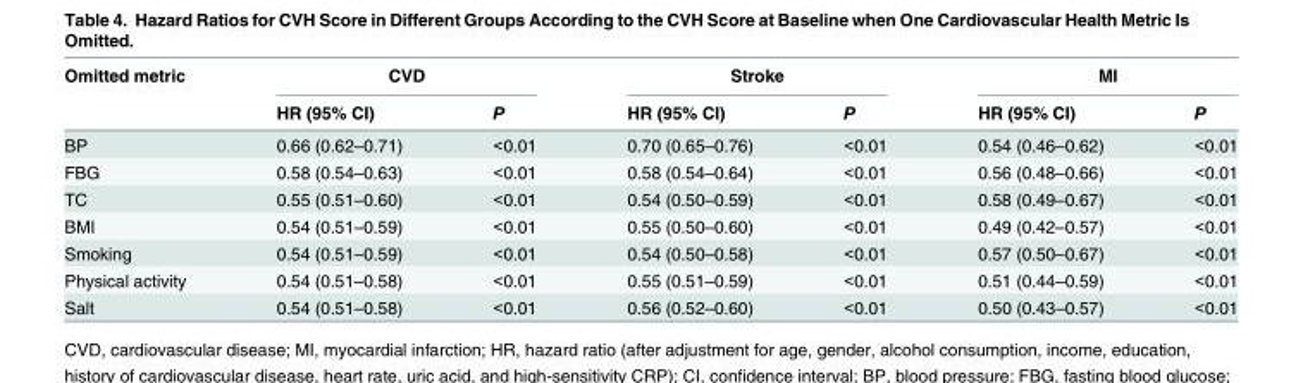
<table><thead><tr><td rowspan="2">Omitted metric</td><td colspan="2">CVD</td><td colspan="2">Stroke</td><td colspan="2">MI</td></tr><tr><td>HR (95% CI)</td><td>P</td><td>HR (95% CI)</td><td>P</td><td>HR (95% CI)</td><td>P</td></tr></thead><tbody><tr><td>BP</td><td>0.66 (0.62–0.71)</td><td>&lt;0.01</td><td>0.70 (0.65–0.76)</td><td>&lt;0.01</td><td>0.54 (0.46–0.62)</td><td>&lt;0.01</td></tr><tr><td>FBG</td><td>0.58 (0.54–0.63)</td><td>&lt;0.01</td><td>0.58 (0.54–0.64)</td><td>&lt;0.01</td><td>0.56 (0.48–0.66)</td><td>&lt;0.01</td></tr><tr><td>TC</td><td>0.55 (0.51–0.60)</td><td>&lt;0.01</td><td>0.54 (0.50–0.59)</td><td>&lt;0.01</td><td>0.58 (0.49–0.67)</td><td>&lt;0.01</td></tr><tr><td>BMI</td><td>0.54 (0.51–0.59)</td><td>&lt;0.01</td><td>0.55 (0.50–0.60)</td><td>&lt;0.01</td><td>0.49 (0.42–0.57)</td><td>&lt;0.01</td></tr><tr><td>Smoking</td><td>0.54 (0.51–0.59)</td><td>&lt;0.01</td><td>0.54 (0.50–0.58)</td><td>&lt;0.01</td><td>0.57 (0.50–0.67)</td><td>&lt;0.01</td></tr><tr><td>Physical activity</td><td>0.54 (0.51–0.58)</td><td>&lt;0.01</td><td>0.55 (0.51–0.59)</td><td>&lt;0.01</td><td>0.51 (0.44–0.59)</td><td>&lt;0.01</td></tr><tr><td>Salt</td><td>0.54 (0.51–0.58)</td><td>&lt;0.01</td><td>0.56 (0.52–0.60)</td><td>&lt;0.01</td><td>0.50 (0.43–0.57)</td><td>&lt;0.01</td></tr></tbody></table>